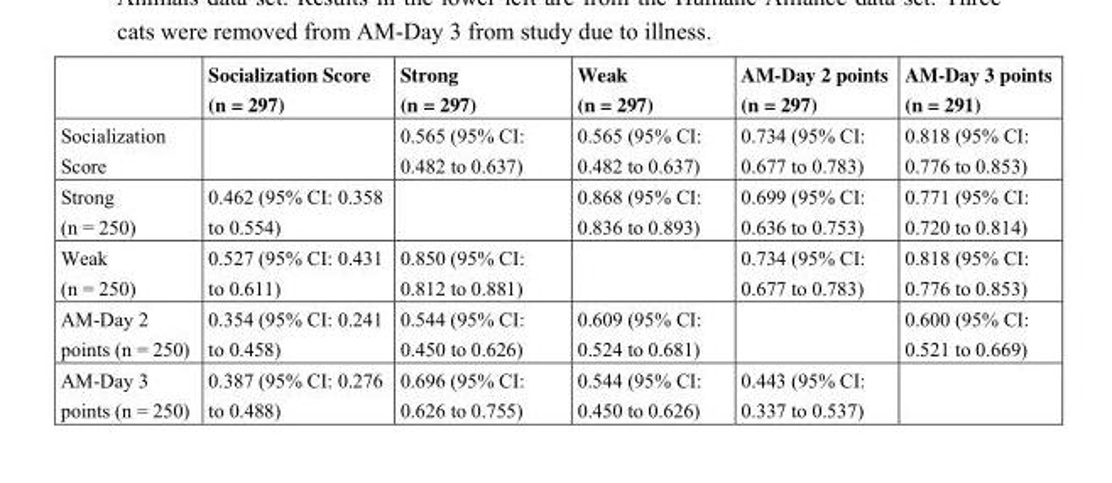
<table><thead><tr><td></td><td>Socialization Score (n = 297)</td><td>Strong (n = 297)</td><td>Weak (n = 297)</td><td>AM-Day 2 points (n = 297)</td><td>AM-Day 3 points (n = 291)</td></tr></thead><tbody><tr><td>Socialization Score</td><td></td><td>0.565 (95% CI: 0.482 to 0.637)</td><td>0.565 (95% CI: 0.482 to 0.637)</td><td>0.734 (95% CI: 0.677 to 0.783)</td><td>0.818 (95% CI: 0.776 to 0.853)</td></tr><tr><td>Strong (n = 250)</td><td>0.462 (95% CI: 0.358 to 0.554)</td><td></td><td>0.868 (95% CI: 0.836 to 0.893)</td><td>0.699 (95% CI: 0.636 to 0.753)</td><td>0.771 (95% CI: 0.720 to 0.814)</td></tr><tr><td>Weak (n = 250)</td><td>0.527 (95% CI: 0.431 to 0.611)</td><td>0.850 (95% CI: 0.812 to 0.881)</td><td></td><td>0.734 (95% CI: 0.677 to 0.783)</td><td>0.818 (95% CI: 0.776 to 0.853)</td></tr><tr><td>AM-Day 2 points (n = 250)</td><td>0.354 (95% CI: 0.241 to 0.458)</td><td>0.544 (95% CI: 0.450 to 0.626)</td><td>0.609 (95% CI: 0.524 to 0.681)</td><td></td><td>0.600 (95% CI: 0.521 to 0.669)</td></tr><tr><td>AM-Day 3 points (n = 250)</td><td>0.387 (95% CI: 0.276 to 0.488)</td><td>0.696 (95% CI: 0.626 to 0.755)</td><td>0.544 (95% CI: 0.450 to 0.626)</td><td>0.443 (95% CI: 0.337 to 0.537)</td><td></td></tr></tbody></table>